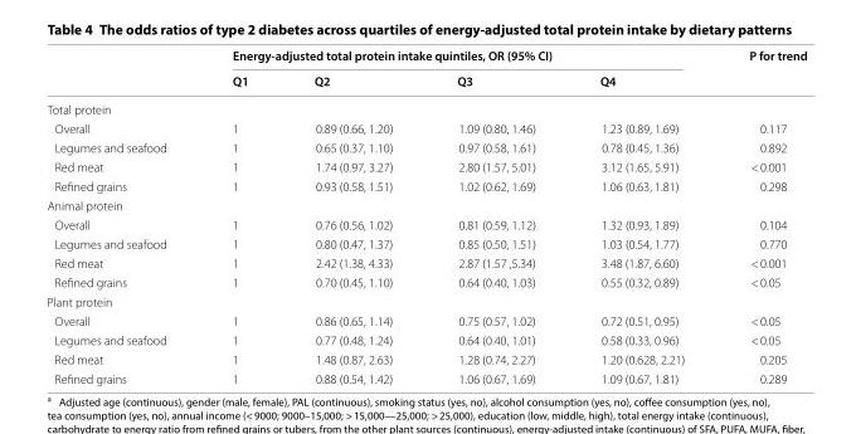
<table><thead><tr><td rowspan="2"></td><td colspan="4">Energy-adjusted total protein intake quintiles, OR (95% CI)</td><td rowspan="2">P for trend</td></tr><tr><td>Q1</td><td>Q2</td><td>Q3</td><td>Q4</td></tr></thead><tbody><tr><td colspan="6">Total protein</td></tr><tr><td>Overall</td><td>1</td><td>0.89 (0.66, 1.20)</td><td>1.09 (0.80, 1.46)</td><td>1.23 (0.89, 1.69)</td><td>0.117</td></tr><tr><td>Legumes and seafood</td><td>1</td><td>0.65 (0.37, 1.10)</td><td>0.97 (0.58, 1.61)</td><td>0.78 (0.45, 1.36)</td><td>0.892</td></tr><tr><td>Red meat</td><td>1</td><td>1.74 (0.97, 3.27)</td><td>2.80 (1.57, 5.01)</td><td>3.12 (1.65, 5.91)</td><td>&lt; 0.001</td></tr><tr><td>Refined grains</td><td>1</td><td>0.93 (0.58, 1.51)</td><td>1.02 (0.62, 1.69)</td><td>1.06 (0.63, 1.81)</td><td>0.298</td></tr><tr><td colspan="6">Animal protein</td></tr><tr><td>Overall</td><td>1</td><td>0.76 (0.56, 1.02)</td><td>0.81 (0.59, 1.12)</td><td>1.32 (0.93, 1.89)</td><td>0.104</td></tr><tr><td>Legumes and seafood</td><td>1</td><td>0.80 (0.47, 1.37)</td><td>0.85 (0.50, 1.51)</td><td>1.03 (0.54, 1.77)</td><td>0.770</td></tr><tr><td>Red meat</td><td>1</td><td>2.42 (1.38, 4.33)</td><td>2.87 (1.57 ,5.34)</td><td>3.48 (1.87, 6.60)</td><td>&lt; 0.001</td></tr><tr><td>Refined grains</td><td>1</td><td>0.70 (0.45, 1.10)</td><td>0.64 (0.40, 1.03)</td><td>0.55 (0.32, 0.89)</td><td>&lt; 0.05</td></tr><tr><td colspan="6">Plant protein</td></tr><tr><td>Overall</td><td>1</td><td>0.86 (0.65, 1.14)</td><td>0.75 (0.57, 1.02)</td><td>0.72 (0.51, 0.95)</td><td>&lt; 0.05</td></tr><tr><td>Legumes and seafood</td><td>1</td><td>0.77 (0.48, 1.24)</td><td>0.64 (0.40, 1.01)</td><td>0.58 (0.33, 0.96)</td><td>&lt; 0.05</td></tr><tr><td>Red meat</td><td>1</td><td>1.48 (0.87, 2.63)</td><td>1.28 (0.74, 2.27)</td><td>1.20 (0.628, 2.21)</td><td>0.205</td></tr><tr><td>Refined grains</td><td>1</td><td>0.88 (0.54, 1.42)</td><td>1.06 (0.67, 1.69)</td><td>1.09 (0.67, 1.81)</td><td>0.289</td></tr></tbody></table>